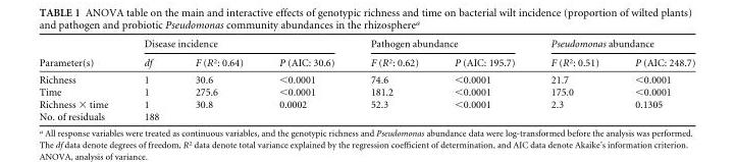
<table><thead><tr><td rowspan="2">Parameter(s)</td><td colspan="3">Disease incidence</td><td colspan="2">Pathogen abundance</td><td colspan="2">Pseudomonas abundance</td></tr><tr><td>df</td><td>F (R<sup>2</sup>: 0.64)</td><td>P (AIC: 30.6)</td><td>F (R<sup>2</sup>: 0.62)</td><td>P (AIC: 195.7)</td><td>F (R<sup>2</sup>: 0.51)</td><td>P (AIC: 248.7)</td></tr></thead><tbody><tr><td>Richness</td><td>1</td><td>30.6</td><td>&lt;0.0001</td><td>74.6</td><td>&lt;0.0001</td><td>21.7</td><td>&lt;0.0001</td></tr><tr><td>Time</td><td>1</td><td>275.6</td><td>&lt;0.0001</td><td>181.2</td><td>&lt;0.0001</td><td>175.0</td><td>&lt;0.0001</td></tr><tr><td>Richness × time</td><td>1</td><td>30.8</td><td>0.0002</td><td>52.3</td><td>&lt;0.0001</td><td>2.3</td><td>0.1305</td></tr><tr><td>No. of residuals</td><td>188</td><td></td><td></td><td></td><td></td><td></td><td></td></tr></tbody></table>